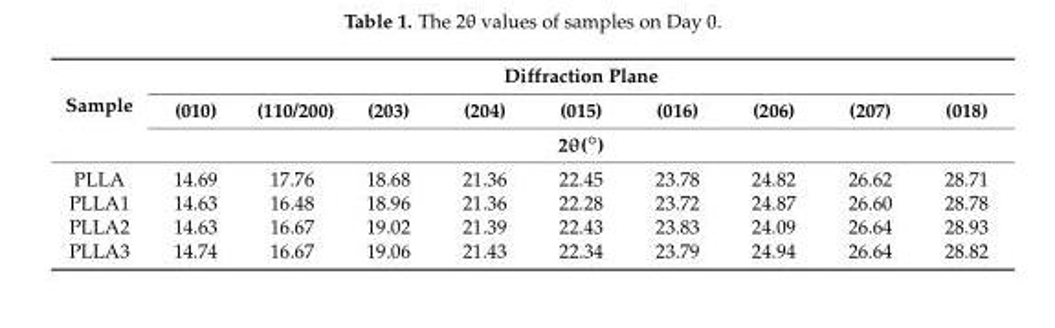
<table><thead><tr><td rowspan="3">Sample</td><td colspan="9">Diffraction Plane</td></tr><tr><td>(010)</td><td>(110/200)</td><td>(203)</td><td>(204)</td><td>(015)</td><td>(016)</td><td>(206)</td><td>(207)</td><td>(018)</td></tr><tr><td colspan="9">2θ(◦)</td></tr></thead><tbody><tr><td>PLLA</td><td>14.69</td><td>17.76</td><td>18.68</td><td>21.36</td><td>22.45</td><td>23.78</td><td>24.82</td><td>26.62</td><td>28.71</td></tr><tr><td>PLLA1</td><td>14.63</td><td>16.48</td><td>18.96</td><td>21.36</td><td>22.28</td><td>23.72</td><td>24.87</td><td>26.60</td><td>28.78</td></tr><tr><td>PLLA2</td><td>14.63</td><td>16.67</td><td>19.02</td><td>21.39</td><td>22.43</td><td>23.83</td><td>24.09</td><td>26.64</td><td>28.93</td></tr><tr><td>PLLA3</td><td>14.74</td><td>16.67</td><td>19.06</td><td>21.43</td><td>22.34</td><td>23.79</td><td>24.94</td><td>26.64</td><td>28.82</td></tr></tbody></table>